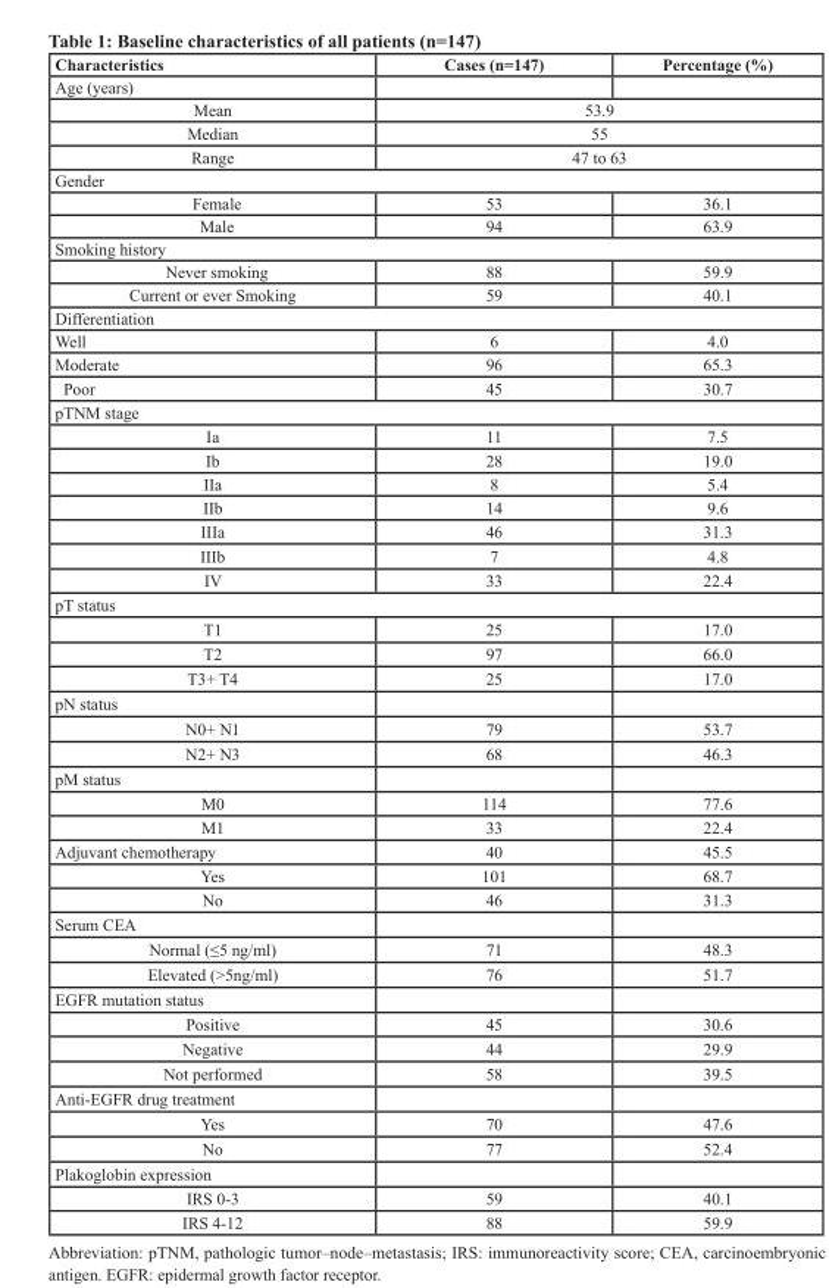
<table><thead><tr><td>Characteristics</td><td>Cases (n=147)</td><td>Percentage (%)</td></tr></thead><tbody><tr><td colspan="3">Age (years)</td></tr><tr><td>Mean</td><td colspan="2">53.9</td></tr><tr><td>Median</td><td colspan="2">55</td></tr><tr><td>Range</td><td colspan="2">47 to 63</td></tr><tr><td colspan="3">Gender</td></tr><tr><td>Female</td><td>53</td><td>36.1</td></tr><tr><td>Male</td><td>94</td><td>63.9</td></tr><tr><td colspan="3">Smoking history</td></tr><tr><td>Never smoking</td><td>88</td><td>59.9</td></tr><tr><td>Current or ever Smoking</td><td>59</td><td>40.1</td></tr><tr><td colspan="3">Differentiation</td></tr><tr><td>Well</td><td>6</td><td>4.0</td></tr><tr><td>Moderate</td><td>96</td><td>65.3</td></tr><tr><td>Poor</td><td>45</td><td>30.7</td></tr><tr><td colspan="3">pTNM stage</td></tr><tr><td>Ia</td><td>11</td><td>7.5</td></tr><tr><td>Ib</td><td>28</td><td>19.0</td></tr><tr><td>IIa</td><td>8</td><td>5.4</td></tr><tr><td>IIb</td><td>14</td><td>9.6</td></tr><tr><td>IIIa</td><td>46</td><td>31.3</td></tr><tr><td>IIIb</td><td>7</td><td>4.8</td></tr><tr><td>IV</td><td>33</td><td>22.4</td></tr><tr><td colspan="3">pT status</td></tr><tr><td>T1</td><td>25</td><td>17.0</td></tr><tr><td>T2</td><td>97</td><td>66.0</td></tr><tr><td>T3+ T4</td><td>25</td><td>17.0</td></tr><tr><td colspan="3">pN status</td></tr><tr><td>N0+ N1</td><td>79</td><td>53.7</td></tr><tr><td>N2+ N3</td><td>68</td><td>46.3</td></tr><tr><td colspan="3">pM status</td></tr><tr><td>M0</td><td>114</td><td>77.6</td></tr><tr><td>M1</td><td>33</td><td>22.4</td></tr><tr><td>Adjuvant chemotherapy</td><td>40</td><td>45.5</td></tr><tr><td>Yes</td><td>101</td><td>68.7</td></tr><tr><td>No</td><td>46</td><td>31.3</td></tr><tr><td colspan="3">Serum CEA</td></tr><tr><td>Normal (≤5 ng/ml)</td><td>71</td><td>48.3</td></tr><tr><td>Elevated (&gt;5ng/ml)</td><td>76</td><td>51.7</td></tr><tr><td colspan="3">EGFR mutation status</td></tr><tr><td>Positive</td><td>45</td><td>30.6</td></tr><tr><td>Negative</td><td>44</td><td>29.9</td></tr><tr><td>Not performed</td><td>58</td><td>39.5</td></tr><tr><td colspan="3">Anti-EGFR drug treatment</td></tr><tr><td>Yes</td><td>70</td><td>47.6</td></tr><tr><td>No</td><td>77</td><td>52.4</td></tr><tr><td colspan="3">Plakoglobin expression</td></tr><tr><td>IRS 0-3</td><td>59</td><td>40.1</td></tr><tr><td>IRS 4-12</td><td>88</td><td>59.9</td></tr></tbody></table>